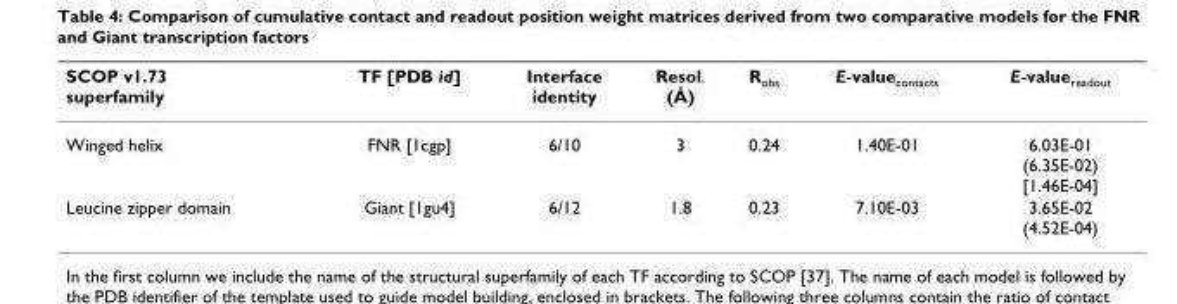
<table><thead><tr><td>SCOP v1.73 superfamily</td><td>TF [PDB id]</td><td>Interface identity</td><td>Resol. (Å)</td><td>R<sub>obs</sub></td><td>E-value<sub>contacts</sub></td><td>E-value<sub>readout</sub></td></tr></thead><tbody><tr><td>Winged helix</td><td>FNR [1cgp]</td><td>6/10</td><td>3</td><td>0.24</td><td>1.40E-01</td><td>6.03E-01 (6.35E-02) [1.46E-04]</td></tr><tr><td>Leucine zipper domain</td><td>Giant [1gu4]</td><td>6/12</td><td>1.8</td><td>0.23</td><td>7.10E-03</td><td>3.65E-02 (4.52E-04)</td></tr></tbody></table>